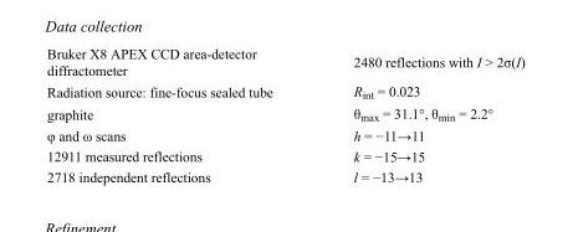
<table><tbody><tr><td>Bruker X8 APEX CCD area-detector diffractometer</td><td>2480 reflections with I &gt; 2σ(I)</td></tr><tr><td>Radiation source: fine-focus sealed tube</td><td>R<sub>int</sub> = 0.023</td></tr><tr><td>graphite</td><td>θ<sub>max</sub> = 31.1°, θ<sub>min</sub> = 2.2°</td></tr><tr><td>φ and ω scans</td><td>h = −11→11</td></tr><tr><td>12911 measured reflections</td><td>k = −15→15</td></tr><tr><td>2718 independent reflections</td><td>l = −13→13</td></tr></tbody></table>